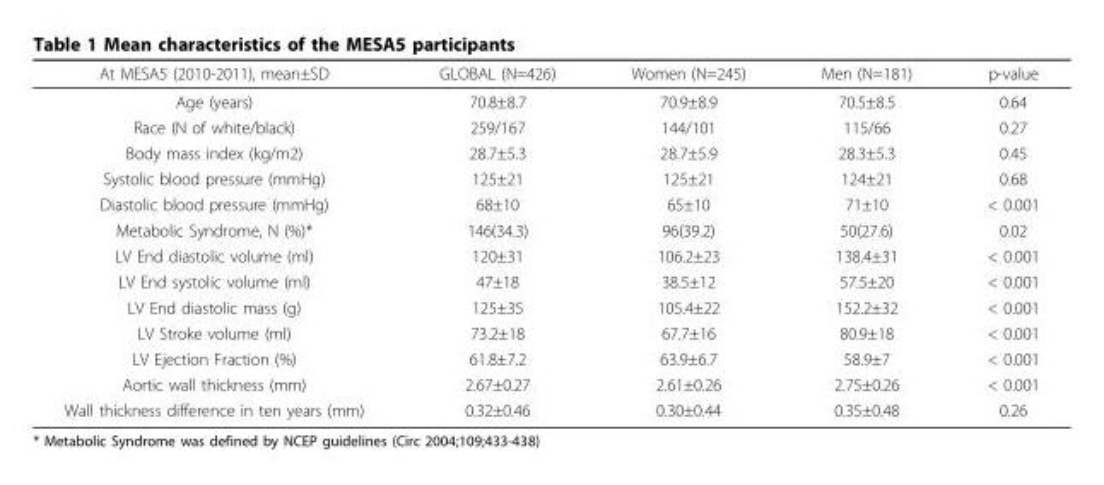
<table><thead><tr><td>At MESA5 (2010-2011), mean±SD</td><td>GLOBAL (N=426)</td><td>Women (N=245)</td><td>Men (N=181)</td><td>p-value</td></tr></thead><tbody><tr><td>Age (years)</td><td>70.8±8.7</td><td>70.9±8.9</td><td>70.5±8.5</td><td>0.64</td></tr><tr><td>Race (N of white/black)</td><td>259/167</td><td>144/101</td><td>115/66</td><td>0.27</td></tr><tr><td>Body mass index (kg/m2)</td><td>28.7±5.3</td><td>28.7±5.9</td><td>28.3±5.3</td><td>0.45</td></tr><tr><td>Systolic blood pressure (mmHg)</td><td>125±21</td><td>125±21</td><td>124±21</td><td>0.68</td></tr><tr><td>Diastolic blood pressure (mmHg)</td><td>68±10</td><td>65±10</td><td>71±10</td><td>&lt; 0.001</td></tr><tr><td>Metabolic Syndrome, N (%)*</td><td>146(34.3)</td><td>96(39.2)</td><td>50(27.6)</td><td>0.02</td></tr><tr><td>LV End diastolic volume (ml)</td><td>120±31</td><td>106.2±23</td><td>138.4±31</td><td>&lt; 0.001</td></tr><tr><td>LV End systolic volume (ml)</td><td>47±18</td><td>38.5±12</td><td>57.5±20</td><td>&lt; 0.001</td></tr><tr><td>LV End diastolic mass (g)</td><td>125±35</td><td>105.4±22</td><td>152.2±32</td><td>&lt; 0.001</td></tr><tr><td>LV Stroke volume (ml)</td><td>73.2±18</td><td>67.7±16</td><td>80.9±18</td><td>&lt; 0.001</td></tr><tr><td>LV Ejection Fraction (%)</td><td>61.8±7.2</td><td>63.9±6.7</td><td>58.9±7</td><td>&lt; 0.001</td></tr><tr><td>Aortic wall thickness (mm)</td><td>2.67±0.27</td><td>2.61±0.26</td><td>2.75±0.26</td><td>&lt; 0.001</td></tr><tr><td>Wall thickness difference in ten years (mm)</td><td>0.32±0.46</td><td>0.30±0.44</td><td>0.35±0.48</td><td>0.26</td></tr></tbody></table>